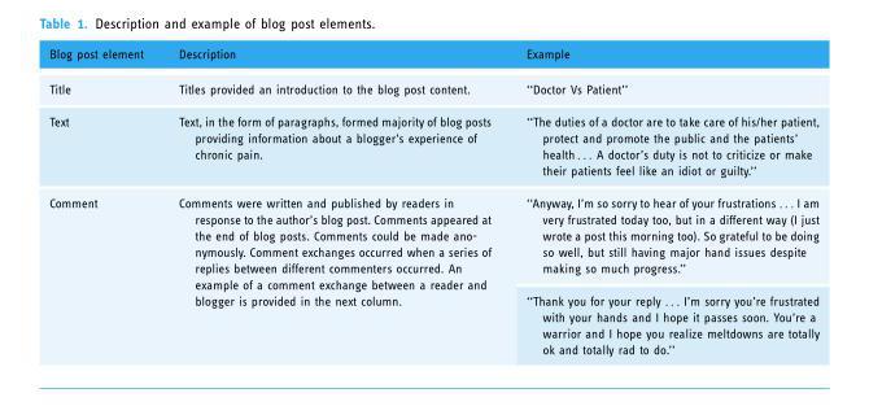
<table><thead><tr><td>Blog post element</td><td>Description</td><td>Example</td></tr></thead><tbody><tr><td>Title</td><td>Titles provided an introduction to the blog post content.</td><td>‘‘Doctor Vs Patient’’</td></tr><tr><td>Text</td><td>Text, in the form of paragraphs, formed majority of blog posts providing information about a blogger’s experience of chronic pain.</td><td>‘‘The duties of a doctor are to take care of his/her patient, protect and promote the public and the patients’ health . . . A doctor’s duty is not to criticize or make their patients feel like an idiot or guilty.’’</td></tr><tr><td rowspan="2">Comment</td><td rowspan="2">Comments were written and published by readers in response to the author’s blog post. Comments appeared at the end of blog posts. Comments could be made ano- nymously. Comment exchanges occurred when a series of replies between different commenters occurred. An example of a comment exchange between a reader and blogger is provided in the next column.</td><td>‘‘Anyway, I’m so sorry to hear of your frustrations . . . I am very frustrated today too, but in a different way (I just wrote a post this morning too). So grateful to be doing so well, but still having major hand issues despite making so much progress.’’</td></tr><tr><td>‘‘Thank you for your reply . . . I’m sorry you’re frustrated with your hands and I hope it passes soon. You’re a warrior and I hope you realize meltdowns are totally ok and totally rad to do.’’</td></tr></tbody></table>